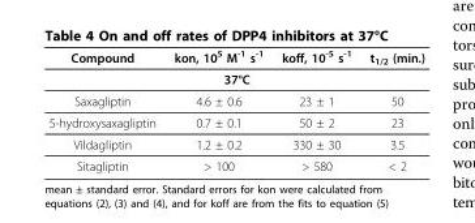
<table><thead><tr><td>Compound</td><td>kon, 10<sup>5</sup> M<sup>-1</sup> s<sup>-1</sup></td><td>koff, 10<sup>-5</sup> s<sup>-1</sup></td><td>t<sub>1/2</sub> (min.)</td></tr></thead><tbody><tr><td colspan="4">37°C</td></tr><tr><td>Saxagliptin</td><td>4.6 ± 0.6</td><td>23 ± 1</td><td>50</td></tr><tr><td>5-hydroxysaxagliptin</td><td>0.7 ± 0.1</td><td>50 ± 2</td><td>23</td></tr><tr><td>Vildagliptin</td><td>1.2 ± 0.2</td><td>330 ± 30</td><td>3.5</td></tr><tr><td>Sitagliptin</td><td>&gt; 100</td><td>&gt; 580</td><td>&lt; 2</td></tr></tbody></table>